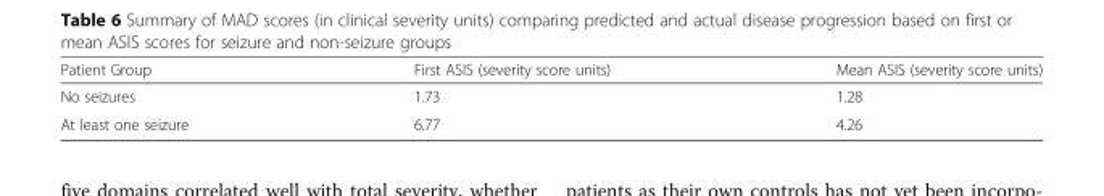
<table><thead><tr><td>Patient Group</td><td>First ASIS (severity score units)</td><td>Mean ASIS (severity score units)</td></tr></thead><tbody><tr><td>No seizures</td><td>1.73</td><td>1.28</td></tr><tr><td>At least one seizure</td><td>6.77</td><td>4.26</td></tr></tbody></table>